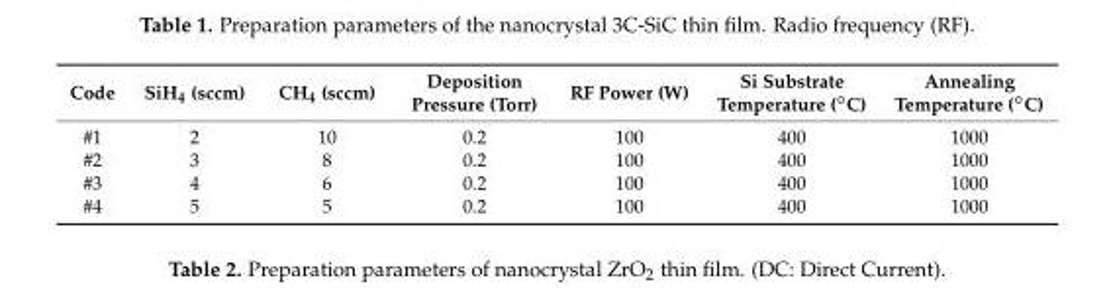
<table><thead><tr><td>Code</td><td>SiH<sub>4</sub> (sccm)</td><td>CH<sub>4</sub> (sccm)</td><td>Deposition Pressure (Torr)</td><td>RF Power (W)</td><td>Si Substrate Temperature (◦C)</td><td>Annealing Temperature (◦C)</td></tr></thead><tbody><tr><td>#1</td><td>2</td><td>10</td><td>0.2</td><td>100</td><td>400</td><td>1000</td></tr><tr><td>#2</td><td>3</td><td>8</td><td>0.2</td><td>100</td><td>400</td><td>1000</td></tr><tr><td>#3</td><td>4</td><td>6</td><td>0.2</td><td>100</td><td>400</td><td>1000</td></tr><tr><td>#4</td><td>5</td><td>5</td><td>0.2</td><td>100</td><td>400</td><td>1000</td></tr></tbody></table>